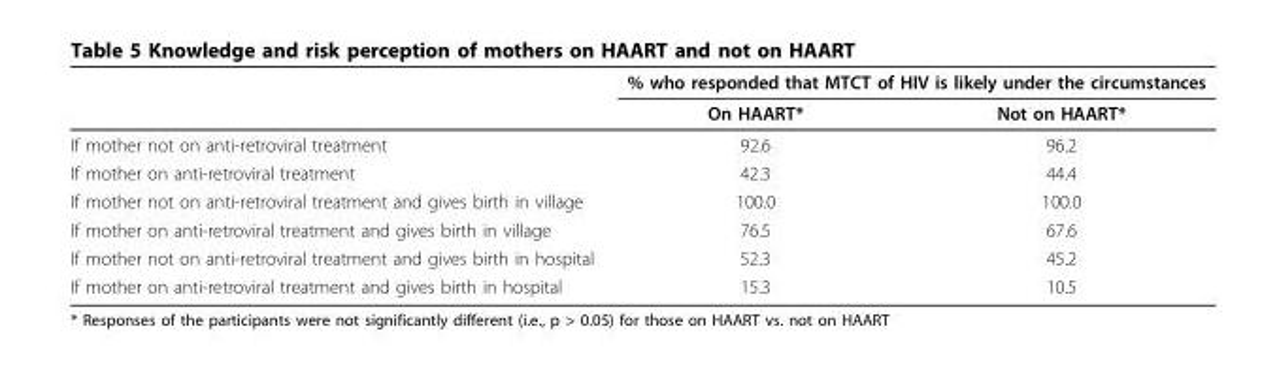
<table><thead><tr><td rowspan="2"></td><td colspan="2">% who responded that MTCT of HIV is likely under the circumstances</td></tr><tr><td>On HAART*</td><td>Not on HAART*</td></tr></thead><tbody><tr><td>If mother not on anti-retroviral treatment</td><td>92.6</td><td>96.2</td></tr><tr><td>If mother on anti-retroviral treatment</td><td>42.3</td><td>44.4</td></tr><tr><td>If mother not on anti-retroviral treatment and gives birth in village</td><td>100.0</td><td>100.0</td></tr><tr><td>If mother on anti-retroviral treatment and gives birth in village</td><td>76.5</td><td>67.6</td></tr><tr><td>If mother not on anti-retroviral treatment and gives birth in hospital</td><td>52.3</td><td>45.2</td></tr><tr><td>If mother on anti-retroviral treatment and gives birth in hospital</td><td>15.3</td><td>10.5</td></tr></tbody></table>